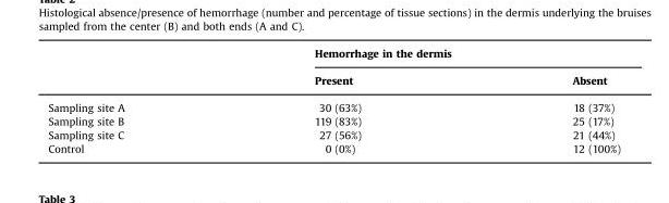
<table><thead><tr><td rowspan="2"></td><td colspan="2">Hemorrhage in the dermis</td></tr><tr><td>Present</td><td>Absent</td></tr></thead><tbody><tr><td>Sampling site A</td><td>30 (63%)</td><td>18 (37%)</td></tr><tr><td>Sampling site B</td><td>119 (83%)</td><td>25 (17%)</td></tr><tr><td>Sampling site C</td><td>27 (56%)</td><td>21 (44%)</td></tr><tr><td>Control</td><td>0 (0%)</td><td>12 (100%)</td></tr></tbody></table>